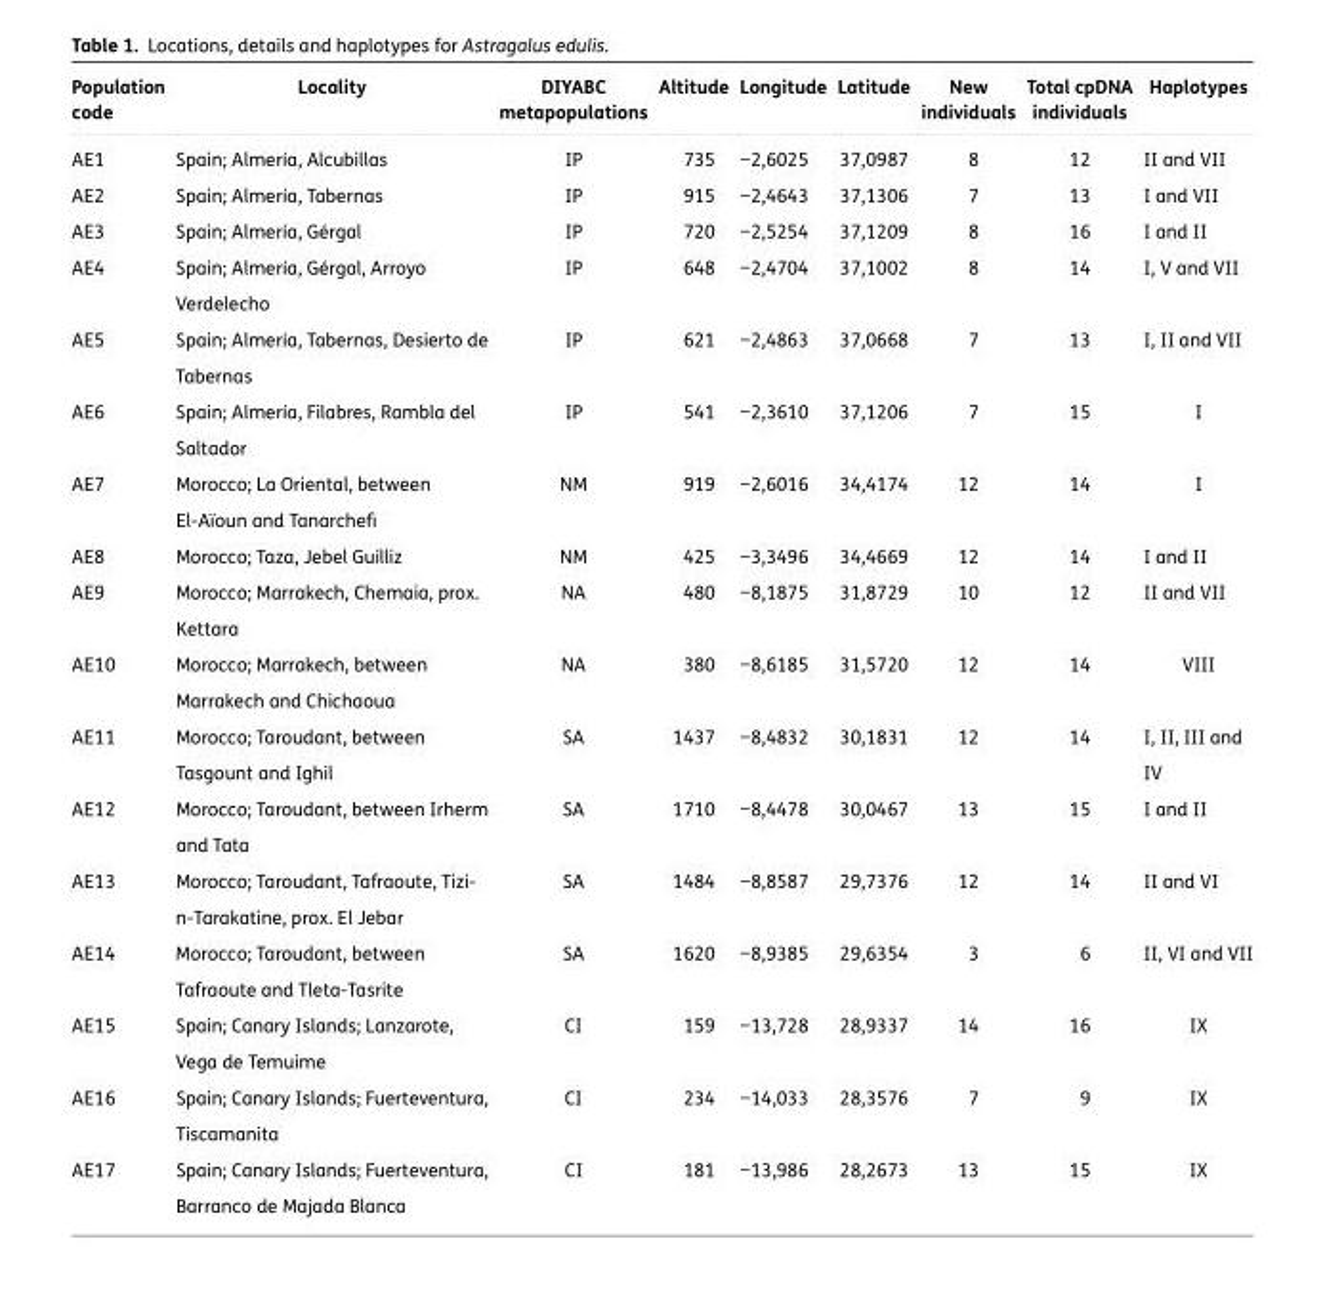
<table><thead><tr><td>Population code</td><td>Locality</td><td>DIYABC metapopulations</td><td>Altitude</td><td>Longitude</td><td>Latitude</td><td>New individuals</td><td>Total cpDNA individuals</td><td>Haplotypes</td></tr></thead><tbody><tr><td>AE1</td><td>Spain; Almería, Alcubillas</td><td>IP</td><td>735</td><td>−2,6025</td><td>37,0987</td><td>8</td><td>12</td><td>II and VII</td></tr><tr><td>AE2</td><td>Spain; Almería, Tabernas</td><td>IP</td><td>915</td><td>−2,4643</td><td>37,1306</td><td>7</td><td>13</td><td>I and VII</td></tr><tr><td>AE3</td><td>Spain; Almería, Gérgal</td><td>IP</td><td>720</td><td>−2,5254</td><td>37,1209</td><td>8</td><td>16</td><td>I and II</td></tr><tr><td>AE4</td><td>Spain; Almería, Gérgal, Arroyo Verdelecho</td><td>IP</td><td>648</td><td>−2,4704</td><td>37,1002</td><td>8</td><td>14</td><td>I, V and VII</td></tr><tr><td>AE5</td><td>Spain; Almería, Tabernas, Desierto de Tabernas</td><td>IP</td><td>621</td><td>−2,4863</td><td>37,0668</td><td>7</td><td>13</td><td>I, II and VII</td></tr><tr><td>AE6</td><td>Spain; Almería, Filabres, Rambla del Saltador</td><td>IP</td><td>541</td><td>−2,3610</td><td>37,1206</td><td>7</td><td>15</td><td>I</td></tr><tr><td>AE7</td><td>Morocco; La Oriental, between El-Aïoun and Tanarchefi</td><td>NM</td><td>919</td><td>−2,6016</td><td>34,4174</td><td>12</td><td>14</td><td>I</td></tr><tr><td>AE8</td><td>Morocco; Taza, Jebel Guilliz</td><td>NM</td><td>425</td><td>−3,3496</td><td>34,4669</td><td>12</td><td>14</td><td>I and II</td></tr><tr><td>AE9</td><td>Morocco; Marrakech, Chemaia, prox. Kettara</td><td>NA</td><td>480</td><td>−8,1875</td><td>31,8729</td><td>10</td><td>12</td><td>II and VII</td></tr><tr><td>AE10</td><td>Morocco; Marrakech, between Marrakech and Chichaoua</td><td>NA</td><td>380</td><td>−8,6185</td><td>31,5720</td><td>12</td><td>14</td><td>VIII</td></tr><tr><td>AE11</td><td>Morocco; Taroudant, between Tasgount and Ighil</td><td>SA</td><td>1437</td><td>−8,4832</td><td>30,1831</td><td>12</td><td>14</td><td>I, II, III and IV</td></tr><tr><td>AE12</td><td>Morocco; Taroudant, between Irherm and Tata</td><td>SA</td><td>1710</td><td>−8,4478</td><td>30,0467</td><td>13</td><td>15</td><td>I and II</td></tr><tr><td>AE13</td><td>Morocco; Taroudant, Tafraoute, Tizi- n-Tarakatine, prox. El Jebar</td><td>SA</td><td>1484</td><td>−8,8587</td><td>29,7376</td><td>12</td><td>14</td><td>II and VI</td></tr><tr><td>AE14</td><td>Morocco; Taroudant, between Tafraoute and Tleta-Tasrite</td><td>SA</td><td>1620</td><td>−8,9385</td><td>29,6354</td><td>3</td><td>6</td><td>II, VI and VII</td></tr><tr><td>AE15</td><td>Spain; Canary Islands; Lanzarote, Vega de Temuime</td><td>CI</td><td>159</td><td>−13,728</td><td>28,9337</td><td>14</td><td>16</td><td>IX</td></tr><tr><td>AE16</td><td>Spain; Canary Islands; Fuerteventura, Tiscamanita</td><td>CI</td><td>234</td><td>−14,033</td><td>28,3576</td><td>7</td><td>9</td><td>IX</td></tr><tr><td>AE17</td><td>Spain; Canary Islands; Fuerteventura, Barranco de Majada Blanca</td><td>CI</td><td>181</td><td>−13,986</td><td>28,2673</td><td>13</td><td>15</td><td>IX</td></tr></tbody></table>